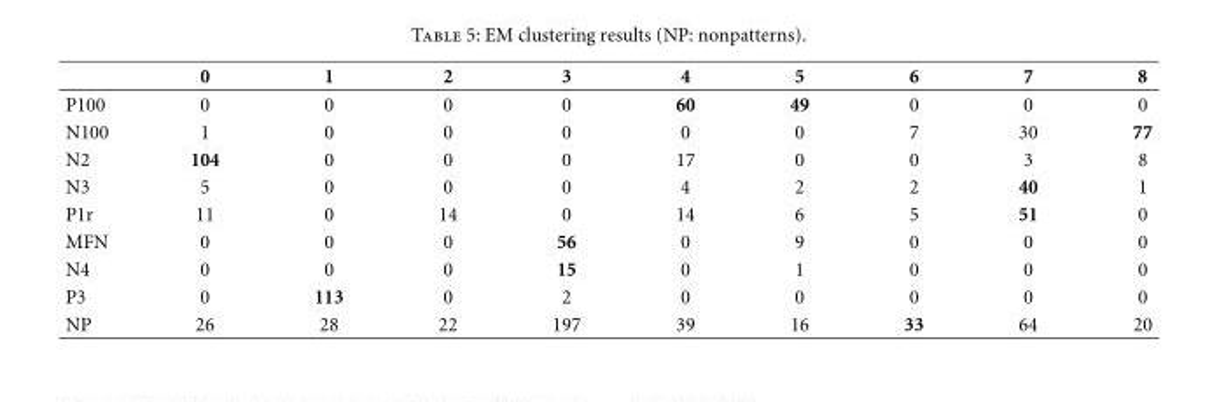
<table><thead><tr><td></td><td>0</td><td>1</td><td>2</td><td>3</td><td>4</td><td>5</td><td>6</td><td>7</td><td>8</td></tr></thead><tbody><tr><td>P100</td><td>0</td><td>0</td><td>0</td><td>0</td><td>60</td><td>49</td><td>0</td><td>0</td><td>0</td></tr><tr><td>N100</td><td>1</td><td>0</td><td>0</td><td>0</td><td>0</td><td>0</td><td>7</td><td>30</td><td>77</td></tr><tr><td>N2</td><td>104</td><td>0</td><td>0</td><td>0</td><td>17</td><td>0</td><td>0</td><td>3</td><td>8</td></tr><tr><td>N3</td><td>5</td><td>0</td><td>0</td><td>0</td><td>4</td><td>2</td><td>2</td><td>40</td><td>1</td></tr><tr><td>P1r</td><td>11</td><td>0</td><td>14</td><td>0</td><td>14</td><td>6</td><td>5</td><td>51</td><td>0</td></tr><tr><td>MFN</td><td>0</td><td>0</td><td>0</td><td>56</td><td>0</td><td>9</td><td>0</td><td>0</td><td>0</td></tr><tr><td>N4</td><td>0</td><td>0</td><td>0</td><td>15</td><td>0</td><td>1</td><td>0</td><td>0</td><td>0</td></tr><tr><td>P3</td><td>0</td><td>113</td><td>0</td><td>2</td><td>0</td><td>0</td><td>0</td><td>0</td><td>0</td></tr><tr><td>NP</td><td>26</td><td>28</td><td>22</td><td>197</td><td>39</td><td>16</td><td>33</td><td>64</td><td>20</td></tr></tbody></table>